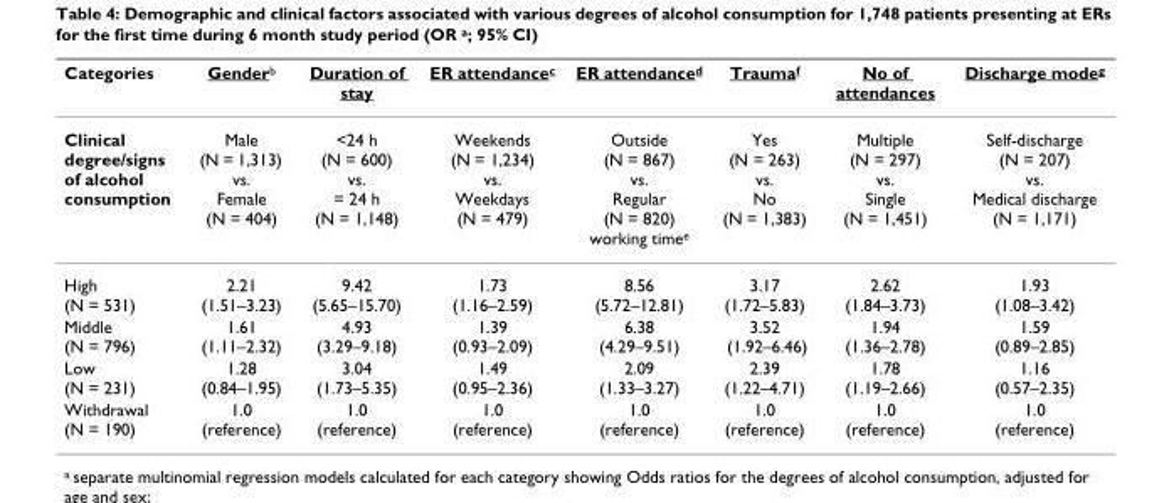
<table><thead><tr><td>Categories</td><td>Gender<sup>b</sup></td><td>Duration of stay</td><td>ER attendance<sup>c</sup></td><td>ER attendance<sup>d</sup></td><td>Trauma<sup>f</sup></td><td>No of attendances</td><td>Discharge mode<sup>g</sup></td></tr></thead><tbody><tr><td>Clinical degree/signs of alcohol consumption</td><td>Male (N = 1,313) vs. Female (N = 404)</td><td>&lt;24 h (N = 600) vs. = 24 h (N = 1,148)</td><td>Weekends (N = 1,234) vs. Weekdays (N = 479)</td><td>Outside (N = 867) vs. Regular (N = 820) working time<sup>e</sup></td><td>Yes (N = 263) vs. No (N = 1,383)</td><td>Multiple (N = 297) vs. Single (N = 1,451)</td><td>Self-discharge (N = 207) vs. Medical discharge (N = 1,171)</td></tr><tr><td>High (N = 531)</td><td>2.21 (1.51–3.23)</td><td>9.42 (5.65–15.70)</td><td>1.73 (1.16–2.59)</td><td>8.56 (5.72–12.81)</td><td>3.17 (1.72–5.83)</td><td>2.62 (1.84–3.73)</td><td>1.93 (1.08–3.42)</td></tr><tr><td>Middle (N = 796)</td><td>1.61 (1.11–2.32)</td><td>4.93 (3.29–9.18)</td><td>1.39 (0.93–2.09)</td><td>6.38 (4.29–9.51)</td><td>3.52 (1.92–6.46)</td><td>1.94 (1.36–2.78)</td><td>1.59 (0.89–2.85)</td></tr><tr><td>Low (N = 231)</td><td>1.28 (0.84–1.95)</td><td>3.04 (1.73–5.35)</td><td>1.49 (0.95–2.36)</td><td>2.09 (1.33–3.27)</td><td>2.39 (1.22–4.71)</td><td>1.78 (1.19–2.66)</td><td>1.16 (0.57–2.35)</td></tr><tr><td>Withdrawal (N = 190)</td><td>1.0 (reference)</td><td>1.0 (reference)</td><td>1.0 (reference)</td><td>1.0 (reference)</td><td>1.0 (reference)</td><td>1.0 (reference)</td><td>1.0 (reference)</td></tr></tbody></table>